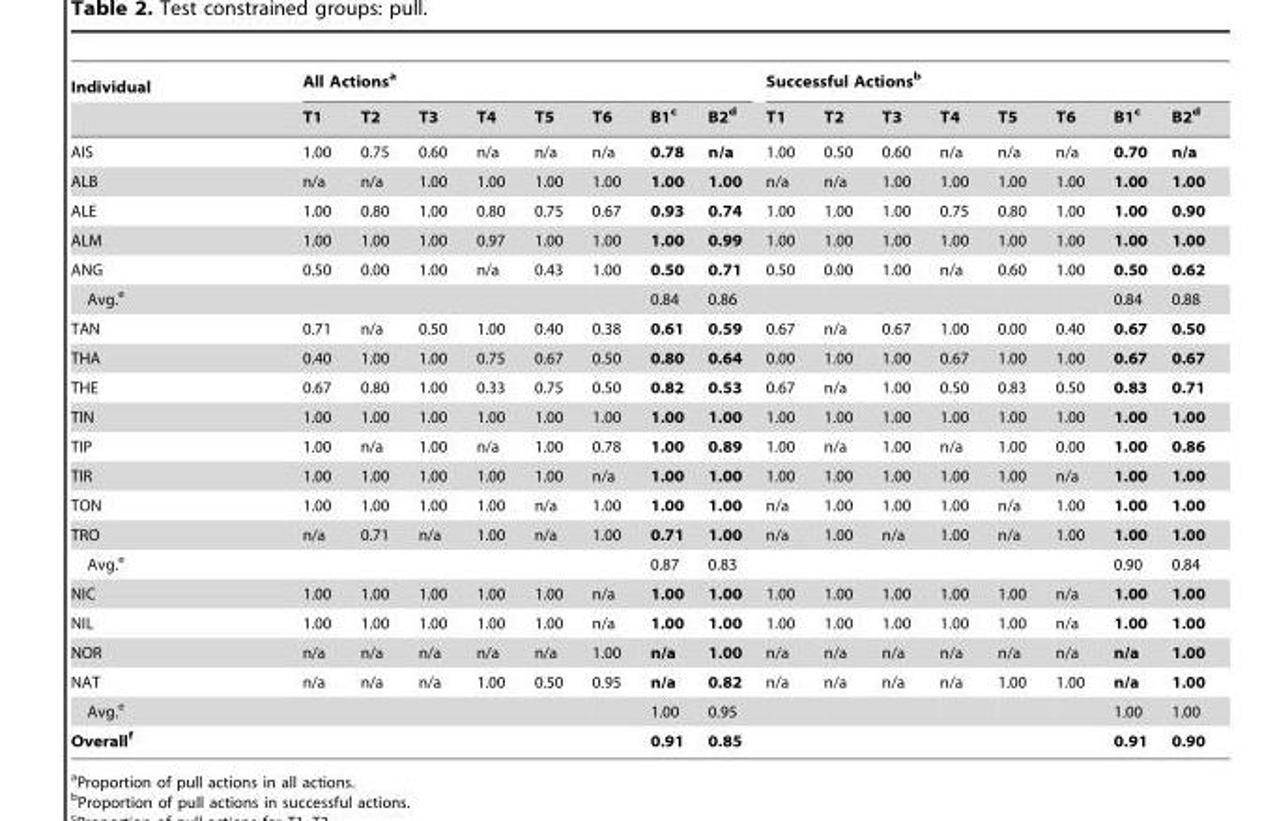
<table><thead><tr><td rowspan="2">Individual</td><td colspan="8">All Actions<sup>a</sup></td><td colspan="8">Successful Actions<sup>b</sup></td></tr><tr><td>T1</td><td>T2</td><td>T3</td><td>T4</td><td>T5</td><td>T6</td><td>B1<sup>c</sup></td><td>B2<sup>d</sup></td><td>T1</td><td>T2</td><td>T3</td><td>T4</td><td>T5</td><td>T6</td><td>B1<sup>c</sup></td><td>B2<sup>d</sup></td></tr></thead><tbody><tr><td>AIS</td><td>1.00</td><td>0.75</td><td>0.60</td><td>n/a</td><td>n/a</td><td>n/a</td><td>0.78</td><td>n/a</td><td>1.00</td><td>0.50</td><td>0.60</td><td>n/a</td><td>n/a</td><td>n/a</td><td>0.70</td><td>n/a</td></tr><tr><td>ALB</td><td>n/a</td><td>n/a</td><td>1.00</td><td>1.00</td><td>1.00</td><td>1.00</td><td>1.00</td><td>1.00</td><td>n/a</td><td>n/a</td><td>1.00</td><td>1.00</td><td>1.00</td><td>1.00</td><td>1.00</td><td>1.00</td></tr><tr><td>ALE</td><td>1.00</td><td>0.80</td><td>1.00</td><td>0.80</td><td>0.75</td><td>0.67</td><td>0.93</td><td>0.74</td><td>1.00</td><td>1.00</td><td>1.00</td><td>0.75</td><td>0.80</td><td>1.00</td><td>1.00</td><td>0.90</td></tr><tr><td>ALM</td><td>1.00</td><td>1.00</td><td>1.00</td><td>0.97</td><td>1.00</td><td>1.00</td><td>1.00</td><td>0.99</td><td>1.00</td><td>1.00</td><td>1.00</td><td>1.00</td><td>1.00</td><td>1.00</td><td>1.00</td><td>1.00</td></tr><tr><td>ANG</td><td>0.50</td><td>0.00</td><td>1.00</td><td>n/a</td><td>0.43</td><td>1.00</td><td>0.50</td><td>0.71</td><td>0.50</td><td>0.00</td><td>1.00</td><td>n/a</td><td>0.60</td><td>1.00</td><td>0.50</td><td>0.62</td></tr><tr><td>Avg.<sup>e</sup></td><td></td><td></td><td></td><td></td><td></td><td></td><td>0.84</td><td>0.86</td><td></td><td></td><td></td><td></td><td></td><td></td><td>0.84</td><td>0.88</td></tr><tr><td>TAN</td><td>0.71</td><td>n/a</td><td>0.50</td><td>1.00</td><td>0.40</td><td>0.38</td><td>0.61</td><td>0.59</td><td>0.67</td><td>n/a</td><td>0.67</td><td>1.00</td><td>0.00</td><td>0.40</td><td>0.67</td><td>0.50</td></tr><tr><td>THA</td><td>0.40</td><td>1.00</td><td>1.00</td><td>0.75</td><td>0.67</td><td>0.50</td><td>0.80</td><td>0.64</td><td>0.00</td><td>1.00</td><td>1.00</td><td>0.67</td><td>1.00</td><td>1.00</td><td>0.67</td><td>0.67</td></tr><tr><td>THE</td><td>0.67</td><td>0.80</td><td>1.00</td><td>0.33</td><td>0.75</td><td>0.50</td><td>0.82</td><td>0.53</td><td>0.67</td><td>n/a</td><td>1.00</td><td>0.50</td><td>0.83</td><td>0.50</td><td>0.83</td><td>0.71</td></tr><tr><td>TIN</td><td>1.00</td><td>1.00</td><td>1.00</td><td>1.00</td><td>1.00</td><td>1.00</td><td>1.00</td><td>1.00</td><td>1.00</td><td>1.00</td><td>1.00</td><td>1.00</td><td>1.00</td><td>1.00</td><td>1.00</td><td>1.00</td></tr><tr><td>TIP</td><td>1.00</td><td>n/a</td><td>1.00</td><td>n/a</td><td>1.00</td><td>0.78</td><td>1.00</td><td>0.89</td><td>1.00</td><td>n/a</td><td>1.00</td><td>n/a</td><td>1.00</td><td>0.00</td><td>1.00</td><td>0.86</td></tr><tr><td>TIR</td><td>1.00</td><td>1.00</td><td>1.00</td><td>1.00</td><td>1.00</td><td>n/a</td><td>1.00</td><td>1.00</td><td>1.00</td><td>1.00</td><td>1.00</td><td>1.00</td><td>1.00</td><td>n/a</td><td>1.00</td><td>1.00</td></tr><tr><td>TON</td><td>1.00</td><td>1.00</td><td>1.00</td><td>1.00</td><td>n/a</td><td>1.00</td><td>1.00</td><td>1.00</td><td>n/a</td><td>1.00</td><td>1.00</td><td>1.00</td><td>n/a</td><td>1.00</td><td>1.00</td><td>1.00</td></tr><tr><td>TRO</td><td>n/a</td><td>0.71</td><td>n/a</td><td>1.00</td><td>n/a</td><td>1.00</td><td>0.71</td><td>1.00</td><td>n/a</td><td>1.00</td><td>n/a</td><td>1.00</td><td>n/a</td><td>1.00</td><td>1.00</td><td>1.00</td></tr><tr><td>Avg.<sup>e</sup></td><td></td><td></td><td></td><td></td><td></td><td></td><td>0.87</td><td>0.83</td><td></td><td></td><td></td><td></td><td></td><td></td><td>0.90</td><td>0.84</td></tr><tr><td>NIC</td><td>1.00</td><td>1.00</td><td>1.00</td><td>1.00</td><td>1.00</td><td>n/a</td><td>1.00</td><td>1.00</td><td>1.00</td><td>1.00</td><td>1.00</td><td>1.00</td><td>1.00</td><td>n/a</td><td>1.00</td><td>1.00</td></tr><tr><td>NIL</td><td>1.00</td><td>1.00</td><td>1.00</td><td>1.00</td><td>1.00</td><td>n/a</td><td>1.00</td><td>1.00</td><td>1.00</td><td>1.00</td><td>1.00</td><td>1.00</td><td>1.00</td><td>n/a</td><td>1.00</td><td>1.00</td></tr><tr><td>NOR</td><td>n/a</td><td>n/a</td><td>n/a</td><td>n/a</td><td>n/a</td><td>1.00</td><td>n/a</td><td>1.00</td><td>n/a</td><td>n/a</td><td>n/a</td><td>n/a</td><td>n/a</td><td>n/a</td><td>n/a</td><td>1.00</td></tr><tr><td>NAT</td><td>n/a</td><td>n/a</td><td>n/a</td><td>1.00</td><td>0.50</td><td>0.95</td><td>n/a</td><td>0.82</td><td>n/a</td><td>n/a</td><td>n/a</td><td>n/a</td><td>1.00</td><td>1.00</td><td>n/a</td><td>1.00</td></tr><tr><td>Avg.<sup>e</sup></td><td></td><td></td><td></td><td></td><td></td><td></td><td>1.00</td><td>0.95</td><td></td><td></td><td></td><td></td><td></td><td></td><td>1.00</td><td>1.00</td></tr><tr><td>Overallf</td><td></td><td></td><td></td><td></td><td></td><td></td><td>0.91</td><td>0.85</td><td></td><td></td><td></td><td></td><td></td><td></td><td>0.91</td><td>0.90</td></tr></tbody></table>